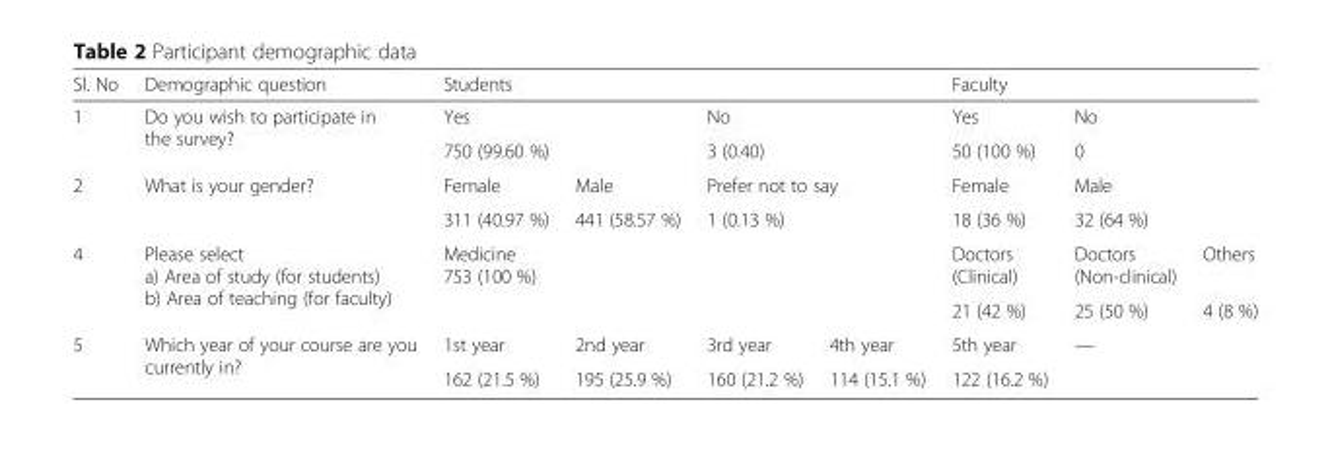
<table><thead><tr><td>Sl. No</td><td>Demographic question</td><td colspan="4">Students</td><td colspan="3">Faculty</td></tr></thead><tbody><tr><td rowspan="2">1</td><td rowspan="2">Do you wish to participate in the survey?</td><td colspan="2">Yes</td><td colspan="2">No</td><td>Yes</td><td colspan="2">No</td></tr><tr><td colspan="2">750 (99.60 %)</td><td colspan="2">3 (0.40)</td><td>50 (100 %)</td><td colspan="2">0</td></tr><tr><td rowspan="2">2</td><td rowspan="2">What is your gender?</td><td>Female</td><td>Male</td><td colspan="2">Prefer not to say</td><td>Female</td><td colspan="2">Male</td></tr><tr><td>311 (40.97 %)</td><td>441 (58.57 %)</td><td colspan="2">1 (0.13 %)</td><td>18 (36 %)</td><td colspan="2">32 (64 %)</td></tr><tr><td rowspan="2">4</td><td rowspan="2">Please select a) Area of study (for students) b) Area of teaching (for faculty)</td><td rowspan="2" colspan="2">Medicine 753 (100 %)</td><td rowspan="2" colspan="2"></td><td>Doctors (Clinical)</td><td>Doctors (Non-clinical)</td><td>Others</td></tr><tr><td>21 (42 %)</td><td>25 (50 %)</td><td>4 (8 %)</td></tr><tr><td rowspan="2">5</td><td rowspan="2">Which year of your course are you currently in?</td><td>1st year</td><td>2nd year</td><td>3rd year</td><td>4th year</td><td>5th year</td><td rowspan="2">—</td><td rowspan="2"></td></tr><tr><td>162 (21.5 %)</td><td>195 (25.9 %)</td><td>160 (21.2 %)</td><td>114 (15.1 %)</td><td>122 (16.2 %)</td></tr></tbody></table>